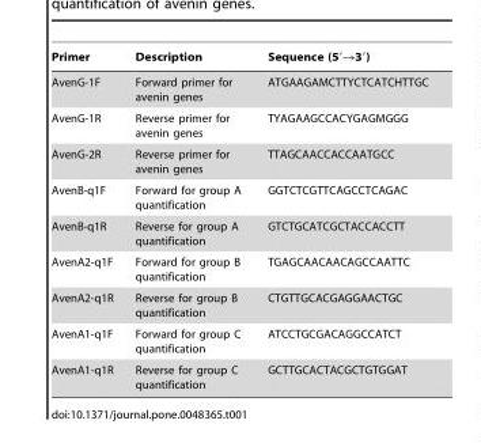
<table><thead><tr><td>Primer</td><td>Description</td><td>Sequence (5′→3′)</td></tr></thead><tbody><tr><td>AvenG-1F</td><td>Forward primer for avenin genes</td><td>ATGAAGAMCTTYCTCATCHTTGC</td></tr><tr><td>AvenG-1R</td><td>Reverse primer for avenin genes</td><td>TYAGAAGCCACYGAGMGGG</td></tr><tr><td>AvenG-2R</td><td>Reverse primer for avenin genes</td><td>TTAGCAACCACCAATGCC</td></tr><tr><td>AvenB-q1F</td><td>Forward for group A quantification</td><td>GGTCTCGTTCAGCCTCAGAC</td></tr><tr><td>AvenB-q1R</td><td>Reverse for group A quantification</td><td>GTCTGCATCGCTACCACCTT</td></tr><tr><td>AvenA2-q1F</td><td>Forward for group B quantification</td><td>TGAGCAACAACAGCCAATTC</td></tr><tr><td>AvenA2-q1R</td><td>Reverse for group B quantification</td><td>CTGTTGCACGAGGAACTGC</td></tr><tr><td>AvenA1-q1F</td><td>Forward for group C quantification</td><td>ATCCTGCGACAGGCCATCT</td></tr><tr><td>AvenA1-q1R</td><td>Reverse for group C quantification</td><td>GCTTGCACTACGCTGTGGAT</td></tr></tbody></table>